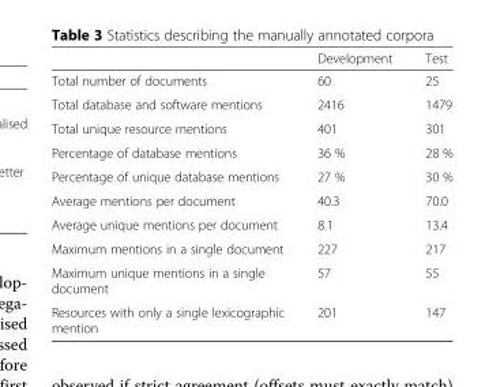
<table><thead><tr><td></td><td>Development</td><td>Test</td></tr></thead><tbody><tr><td>Total number of documents</td><td>60</td><td>25</td></tr><tr><td>Total database and software mentions</td><td>2416</td><td>1479</td></tr><tr><td>Total unique resource mentions</td><td>401</td><td>301</td></tr><tr><td>Percentage of database mentions</td><td>36 %</td><td>28 %</td></tr><tr><td>Percentage of unique database mentions</td><td>27 %</td><td>30 %</td></tr><tr><td>Average mentions per document</td><td>40.3</td><td>70.0</td></tr><tr><td>Average unique mentions per document</td><td>8.1</td><td>13.4</td></tr><tr><td>Maximum mentions in a single document</td><td>227</td><td>217</td></tr><tr><td>Maximum unique mentions in a single document</td><td>57</td><td>55</td></tr><tr><td>Resources with only a single lexicographic mention</td><td>201</td><td>147</td></tr></tbody></table>